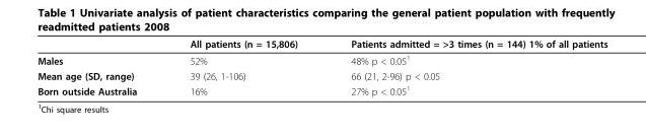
<table><thead><tr><td></td><td>All patients (n = 15,806)</td><td>Patients admitted = &gt;3 times (n = 144) 1% of all patients</td></tr></thead><tbody><tr><td>Males</td><td>52%</td><td>48% p &lt; 0.05<sup>1</sup></td></tr><tr><td>Mean age (SD, range)</td><td>39 (26, 1-106)</td><td>66 (21, 2-96) p &lt; 0.05</td></tr><tr><td>Born outside Australia</td><td>16%</td><td>27% p &lt; 0.05<sup>1</sup></td></tr></tbody></table>